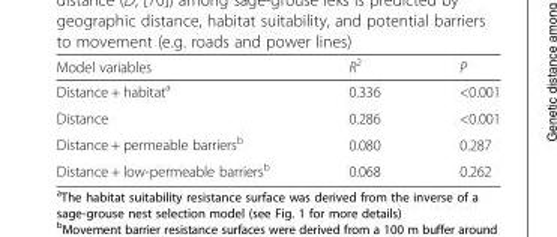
<table><thead><tr><td>Model variables</td><td>R<sup>2</sup></td><td>P</td></tr></thead><tbody><tr><td>Distance + habitat<sup>a</sup></td><td>0.336</td><td>&lt;0.001</td></tr><tr><td>Distance</td><td>0.286</td><td>&lt;0.001</td></tr><tr><td>Distance + permeable barriers<sup>b</sup></td><td>0.080</td><td>0.287</td></tr><tr><td>Distance + low-permeable barriers<sup>b</sup></td><td>0.068</td><td>0.262</td></tr></tbody></table>